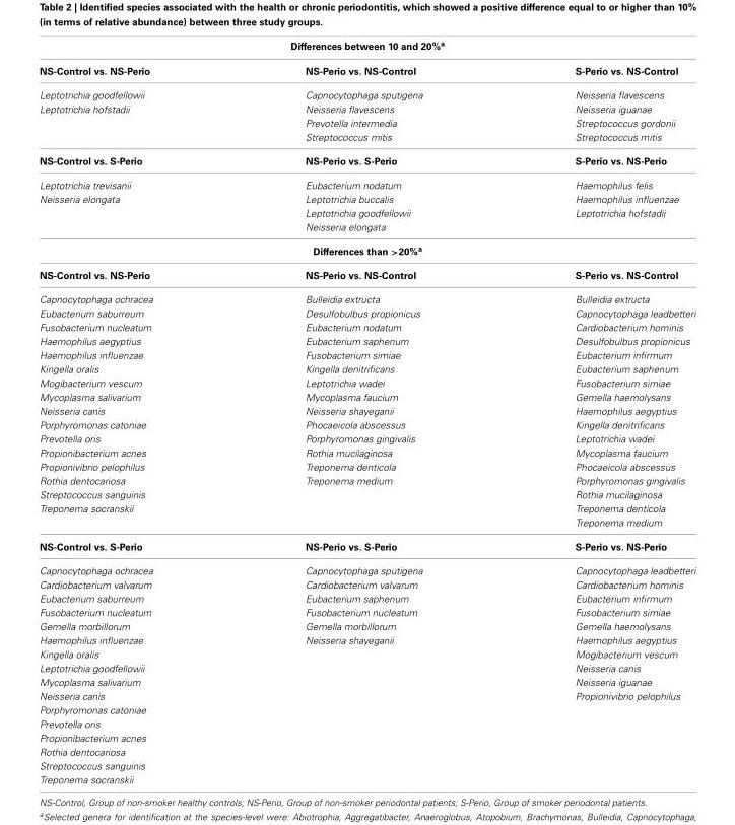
<table><thead><tr><td colspan="3">Differences between 10 and 20%<sup>a</sup></td></tr><tr><td>NS-Control vs. NS-Perio</td><td>NS-Perio vs. NS-Control</td><td>S-Perio vs. NS-Control</td></tr></thead><tbody><tr><td>Leptotrichia goodfellowii</td><td>Capnocytophaga sputigena</td><td>Neisseria flavescens</td></tr><tr><td rowspan="3">Leptotrichia hofstadii</td><td>Neisseria flavescens</td><td>Neisseria iguanae</td></tr><tr><td>Prevotella intermedia</td><td>Streptococcus gordonii</td></tr><tr><td>Streptococcus mitis</td><td>Streptococcus mitis</td></tr><tr><td>NS-Control vs. S-Perio</td><td>NS-Perio vs. S-Perio</td><td>S-Perio vs. NS-Perio</td></tr><tr><td>Leptotrichia trevisanii</td><td>Eubacterium nodatum</td><td>Haemophilus felis</td></tr><tr><td rowspan="3">Neisseria elongata</td><td>Leptotrichia buccalis</td><td>Haemophilus influenzae</td></tr><tr><td>Leptotrichia goodfellowii</td><td>Leptotrichia hofstadii</td></tr><tr><td>Neisseria elongata</td><td></td></tr><tr><td colspan="3">Differences than &gt;20%<sup>a</sup></td></tr><tr><td>NS-Control vs. NS-Perio</td><td>NS-Perio vs. NS-Control</td><td>S-Perio vs. NS-Control</td></tr><tr><td>Capnocytophaga ochracea</td><td>Bulleidia extructa</td><td>Bulleidia extructa</td></tr><tr><td>Eubacterium saburreum</td><td>Desulfobulbus propionicus</td><td>Capnocytophaga leadbetteri</td></tr><tr><td>Fusobacterium nucleatum</td><td>Eubacterium nodatum</td><td>Cardiobacterium hominis</td></tr><tr><td>Haemophilus aegyptius</td><td>Eubacterium saphenum</td><td>Desulfobulbus propionicus</td></tr><tr><td>Haemophilus influenzae</td><td>Fusobacterium simiae</td><td>Eubacterium infirmum</td></tr><tr><td>Kingella oralis</td><td>Kingella denitrificans</td><td>Eubacterium saphenum</td></tr><tr><td>Mogibacterium vescum</td><td>Leptotrichia wadei</td><td>Fusobacterium simiae</td></tr><tr><td>Mycoplasma salivarium</td><td>Mycoplasma faucium</td><td>Gemella haemolysans</td></tr><tr><td>Neisseria canis</td><td>Neisseria shayeganii</td><td>Haemophilus aegyptius</td></tr><tr><td>Porphyromonas catoniae</td><td>Phocaeicola abscessus</td><td>Kingella denitrificans</td></tr><tr><td>Prevotella oris</td><td>Porphyromonas gingivalis</td><td>Leptotrichia wadei</td></tr><tr><td>Propionibacterium acnes</td><td>Rothia mucilaginosa</td><td>Mycoplasma faucium</td></tr><tr><td>Propionivibrio pelophilus</td><td>Treponema denticola</td><td>Phocaeicola abscessus</td></tr><tr><td>Rothia dentocariosa</td><td>Treponema medium</td><td>Porphyromonas gingivalis</td></tr><tr><td>Streptococcus sanguinis</td><td></td><td>Rothia mucilaginosa</td></tr><tr><td rowspan="2">Treponema socranskii</td><td></td><td>Treponema denticola</td></tr><tr><td></td><td>Treponema medium</td></tr><tr><td>NS-Control vs. S-Perio</td><td>NS-Perio vs. S-Perio</td><td>S-Perio vs. NS-Perio</td></tr><tr><td>Capnocytophaga ochracea</td><td>Capnocytophaga sputigena</td><td>Capnocytophaga leadbetteri</td></tr><tr><td>Cardiobacterium valvarum</td><td>Cardiobacterium valvarum</td><td>Cardiobacterium hominis</td></tr><tr><td>Eubacterium saburreum</td><td>Eubacterium saphenum</td><td>Eubacterium infirmum</td></tr><tr><td>Fusobacterium nucleatum</td><td>Fusobacterium nucleatum</td><td>Fusobacterium simiae</td></tr><tr><td>Gemella morbillorum</td><td>Gemella morbillorum</td><td>Gemella haemolysans</td></tr><tr><td>Haemophilus influenzae</td><td>Neisseria shayeganii</td><td>Haemophilus aegyptius</td></tr><tr><td>Kingella oralis</td><td></td><td>Mogibacterium vescum</td></tr><tr><td>Leptotrichia goodfellowii</td><td></td><td>Neisseria canis</td></tr><tr><td>Mycoplasma salivarium</td><td></td><td>Neisseria iguanae</td></tr><tr><td>Neisseria canis</td><td></td><td>Propionivibrio pelophilus</td></tr><tr><td colspan="3">Porphyromonas catoniae</td></tr><tr><td colspan="3">Prevotella oris</td></tr><tr><td colspan="3">Propionibacterium acnes</td></tr><tr><td colspan="3">Rothia dentocariosa</td></tr><tr><td colspan="3">Streptococcus sanguinis</td></tr><tr><td>Treponema socranskii</td><td></td><td></td></tr></tbody></table>